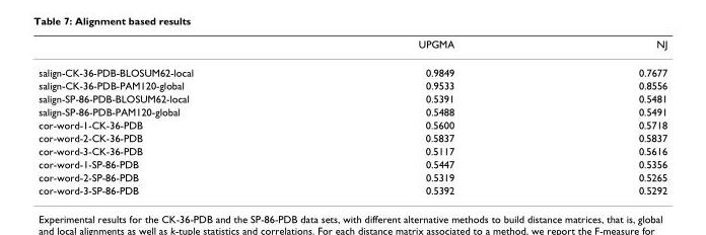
<table><thead><tr><td></td><td>UPGMA</td><td>NJ</td></tr></thead><tbody><tr><td>salign-CK-36-PDB-BLOSUM62-local</td><td>0.9849</td><td>0.7677</td></tr><tr><td>salign-CK-36-PDB-PAM120-global</td><td>0.9533</td><td>0.8556</td></tr><tr><td>salign-SP-86-PDB-BLOSUM62-local</td><td>0.5391</td><td>0.5481</td></tr><tr><td>salign-SP-86-PDB-PAM120-global</td><td>0.5488</td><td>0.5491</td></tr><tr><td>cor-word-1-CK-36-PDB</td><td>0.5600</td><td>0.5718</td></tr><tr><td>cor-word-2-CK-36-PDB</td><td>0.5837</td><td>0.5837</td></tr><tr><td>cor-word-3-CK-36-PDB</td><td>0.5117</td><td>0.5616</td></tr><tr><td>cor-word-1-SP-86-PDB</td><td>0.5447</td><td>0.5356</td></tr><tr><td>cor-word-2-SP-86-PDB</td><td>0.5319</td><td>0.5265</td></tr><tr><td>cor-word-3-SP-86-PDB</td><td>0.5392</td><td>0.5292</td></tr></tbody></table>